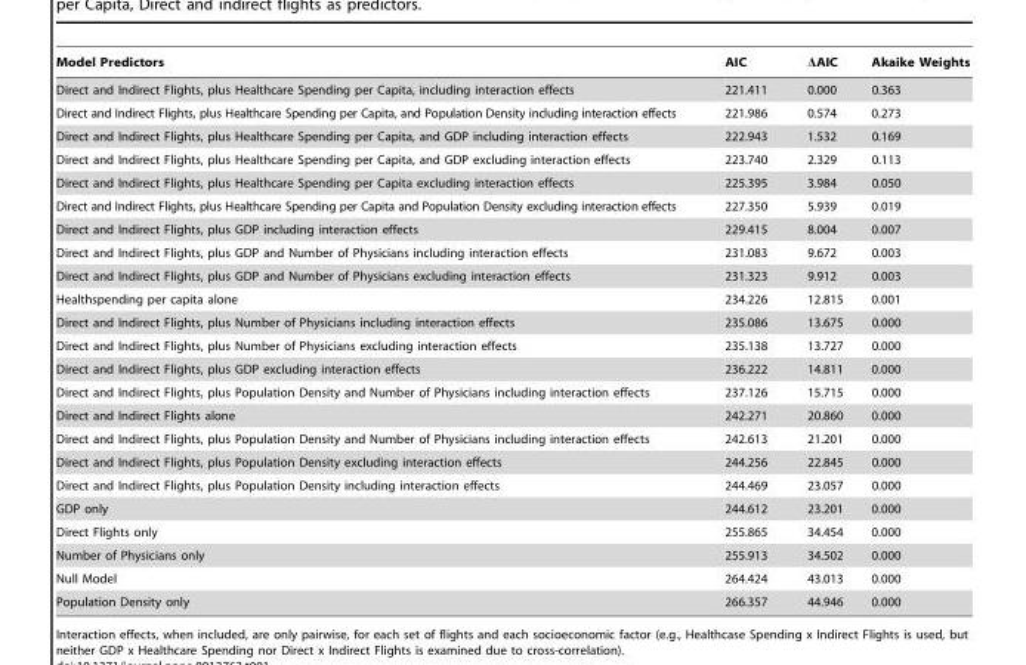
<table><thead><tr><td>Model Predictors</td><td>AIC</td><td>ΔAIC</td><td>Akaike Weights</td></tr></thead><tbody><tr><td>Direct and Indirect Flights, plus Healthcare Spending per Capita, including interaction effects</td><td>221.411</td><td>0.000</td><td>0.363</td></tr><tr><td>Direct and Indirect Flights, plus Healthcare Spending per Capita, and Population Density including interaction effects</td><td>221.986</td><td>0.574</td><td>0.273</td></tr><tr><td>Direct and Indirect Flights, plus Healthcare Spending per Capita, and GDP including interaction effects</td><td>222.943</td><td>1.532</td><td>0.169</td></tr><tr><td>Direct and Indirect Flights, plus Healthcare Spending per Capita, and GDP excluding interaction effects</td><td>223.740</td><td>2.329</td><td>0.113</td></tr><tr><td>Direct and Indirect Flights, plus Healthcare Spending per Capita excluding interaction effects</td><td>225.395</td><td>3.984</td><td>0.050</td></tr><tr><td>Direct and Indirect Flights, plus Healthcare Spending per Capita and Population Density excluding interaction effects</td><td>227.350</td><td>5.939</td><td>0.019</td></tr><tr><td>Direct and Indirect Flights, plus GDP including interaction effects</td><td>229.415</td><td>8.004</td><td>0.007</td></tr><tr><td>Direct and Indirect Flights, plus GDP and Number of Physicians including interaction effects</td><td>231.083</td><td>9.672</td><td>0.003</td></tr><tr><td>Direct and Indirect Flights, plus GDP and Number of Physicians excluding interaction effects</td><td>231.323</td><td>9.912</td><td>0.003</td></tr><tr><td>Healthspending per capita alone</td><td>234.226</td><td>12.815</td><td>0.001</td></tr><tr><td>Direct and Indirect Flights, plus Number of Physicians including interaction effects</td><td>235.086</td><td>13.675</td><td>0.000</td></tr><tr><td>Direct and Indirect Flights, plus Number of Physicians excluding interaction effects</td><td>235.138</td><td>13.727</td><td>0.000</td></tr><tr><td>Direct and Indirect Flights, plus GDP excluding interaction effects</td><td>236.222</td><td>14.811</td><td>0.000</td></tr><tr><td>Direct and Indirect Flights, plus Population Density and Number of Physicians including interaction effects</td><td>237.126</td><td>15.715</td><td>0.000</td></tr><tr><td>Direct and Indirect Flights alone</td><td>242.271</td><td>20.860</td><td>0.000</td></tr><tr><td>Direct and Indirect Flights, plus Population Density and Number of Physicians including interaction effects</td><td>242.613</td><td>21.201</td><td>0.000</td></tr><tr><td>Direct and Indirect Flights, plus Population Density excluding interaction effects</td><td>244.256</td><td>22.845</td><td>0.000</td></tr><tr><td>Direct and Indirect Flights, plus Population Density including interaction effects</td><td>244.469</td><td>23.057</td><td>0.000</td></tr><tr><td>GDP only</td><td>244.612</td><td>23.201</td><td>0.000</td></tr><tr><td>Direct Flights only</td><td>255.865</td><td>34.454</td><td>0.000</td></tr><tr><td>Number of Physicians only</td><td>255.913</td><td>34.502</td><td>0.000</td></tr><tr><td>Null Model</td><td>264.424</td><td>43.013</td><td>0.000</td></tr><tr><td>Population Density only</td><td>266.357</td><td>44.946</td><td>0.000</td></tr></tbody></table>